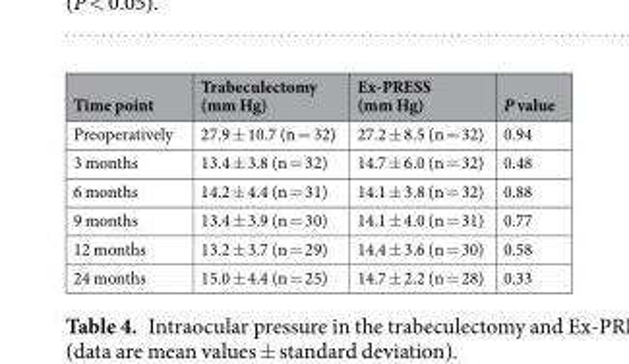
<table><thead><tr><td>Time point</td><td>Trabeculectomy (mm Hg)</td><td>Ex-PRESS (mm Hg)</td><td>P value</td></tr></thead><tbody><tr><td>Preoperatively</td><td>27.9 ± 10.7 (n = 32)</td><td>27.2 ± 8.5 (n = 32)</td><td>0.94</td></tr><tr><td>3 months</td><td>13.4 ± 3.8 (n = 32)</td><td>14.7 ± 6.0 (n = 32)</td><td>0.48</td></tr><tr><td>6 months</td><td>14.2 ± 4.4 (n = 31)</td><td>14.1 ± 3.8 (n = 32)</td><td>0.88</td></tr><tr><td>9 months</td><td>13.4 ± 3.9 (n = 30)</td><td>14.1 ± 4.0 (n = 31)</td><td>0.77</td></tr><tr><td>12 months</td><td>13.2 ± 3.7 (n = 29)</td><td>14.4 ± 3.6 (n = 30)</td><td>0.58</td></tr><tr><td>24 months</td><td>15.0 ± 4.4 (n = 25)</td><td>14.7 ± 2.2 (n = 28)</td><td>0.33</td></tr></tbody></table>